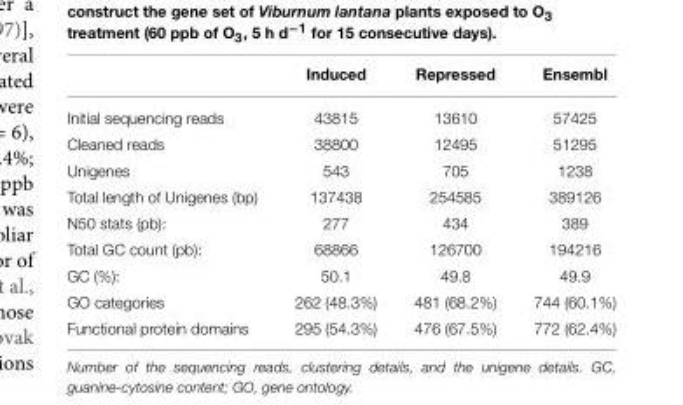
<table><thead><tr><td></td><td>Induced</td><td>Repressed</td><td>Ensembl</td></tr></thead><tbody><tr><td>Initial sequencing reads</td><td>43815</td><td>13610</td><td>57425</td></tr><tr><td>Cleaned reads</td><td>38800</td><td>12495</td><td>51295</td></tr><tr><td>Unigenes</td><td>543</td><td>705</td><td>1238</td></tr><tr><td>Total length of Unigenes (bp)</td><td>137438</td><td>254585</td><td>389126</td></tr><tr><td>N50 stats (pb):</td><td>277</td><td>434</td><td>389</td></tr><tr><td>Total GC count (pb):</td><td>68866</td><td>126700</td><td>194216</td></tr><tr><td>GC (%):</td><td>50.1</td><td>49.8</td><td>49.9</td></tr><tr><td>GO categories</td><td>262 (48.3%)</td><td>481 (68.2%)</td><td>744 (60.1%)</td></tr><tr><td>Functional protein domains</td><td>295 (54.3%)</td><td>476 (67.5%)</td><td>772 (62.4%)</td></tr></tbody></table>